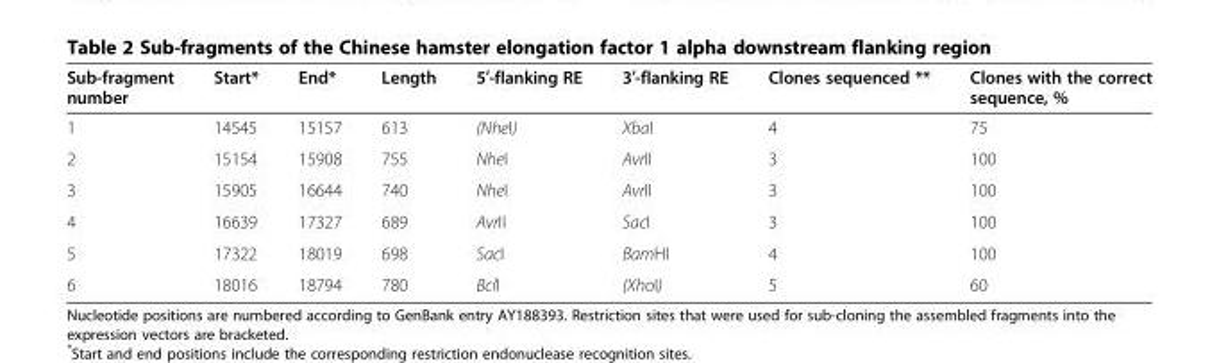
<table><thead><tr><td>Sub-fragment number</td><td>Start*</td><td>End*</td><td>Length</td><td>5′-flanking RE</td><td>3′-flanking RE</td><td>Clones sequenced **</td><td>Clones with the correct sequence, %</td></tr></thead><tbody><tr><td>1</td><td>14545</td><td>15157</td><td>613</td><td>(NheI)</td><td>XbaI</td><td>4</td><td>75</td></tr><tr><td>2</td><td>15154</td><td>15908</td><td>755</td><td>NheI</td><td>AvrII</td><td>3</td><td>100</td></tr><tr><td>3</td><td>15905</td><td>16644</td><td>740</td><td>NheI</td><td>AvrII</td><td>3</td><td>100</td></tr><tr><td>4</td><td>16639</td><td>17327</td><td>689</td><td>AvrII</td><td>SacI</td><td>3</td><td>100</td></tr><tr><td>5</td><td>17322</td><td>18019</td><td>698</td><td>SacI</td><td>BamHI</td><td>4</td><td>100</td></tr><tr><td>6</td><td>18016</td><td>18794</td><td>780</td><td>BclI</td><td>(XhoI)</td><td>5</td><td>60</td></tr></tbody></table>